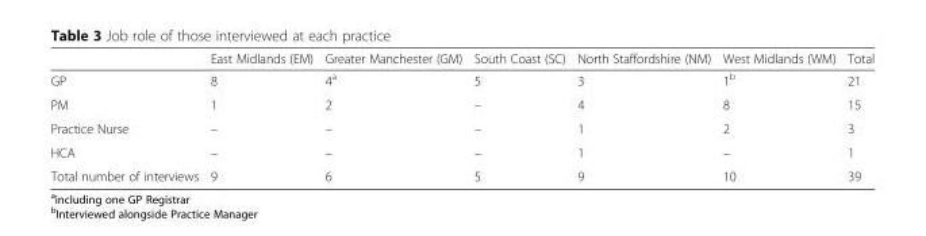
<table><thead><tr><td></td><td>East Midlands (EM)</td><td>Greater Manchester (GM)</td><td>South Coast (SC)</td><td>North Staffordshire (NM)</td><td>West Midlands (WM)</td><td>Total</td></tr></thead><tbody><tr><td>GP</td><td>8</td><td>4<sup>a</sup></td><td>5</td><td>3</td><td>1<sup>b</sup></td><td>21</td></tr><tr><td>PM</td><td>1</td><td>2</td><td>–</td><td>4</td><td>8</td><td>15</td></tr><tr><td>Practice Nurse</td><td>–</td><td>–</td><td>–</td><td>1</td><td>2</td><td>3</td></tr><tr><td>HCA</td><td>–</td><td>–</td><td>–</td><td>1</td><td>–</td><td>1</td></tr><tr><td>Total number of interviews</td><td>9</td><td>6</td><td>5</td><td>9</td><td>10</td><td>39</td></tr></tbody></table>